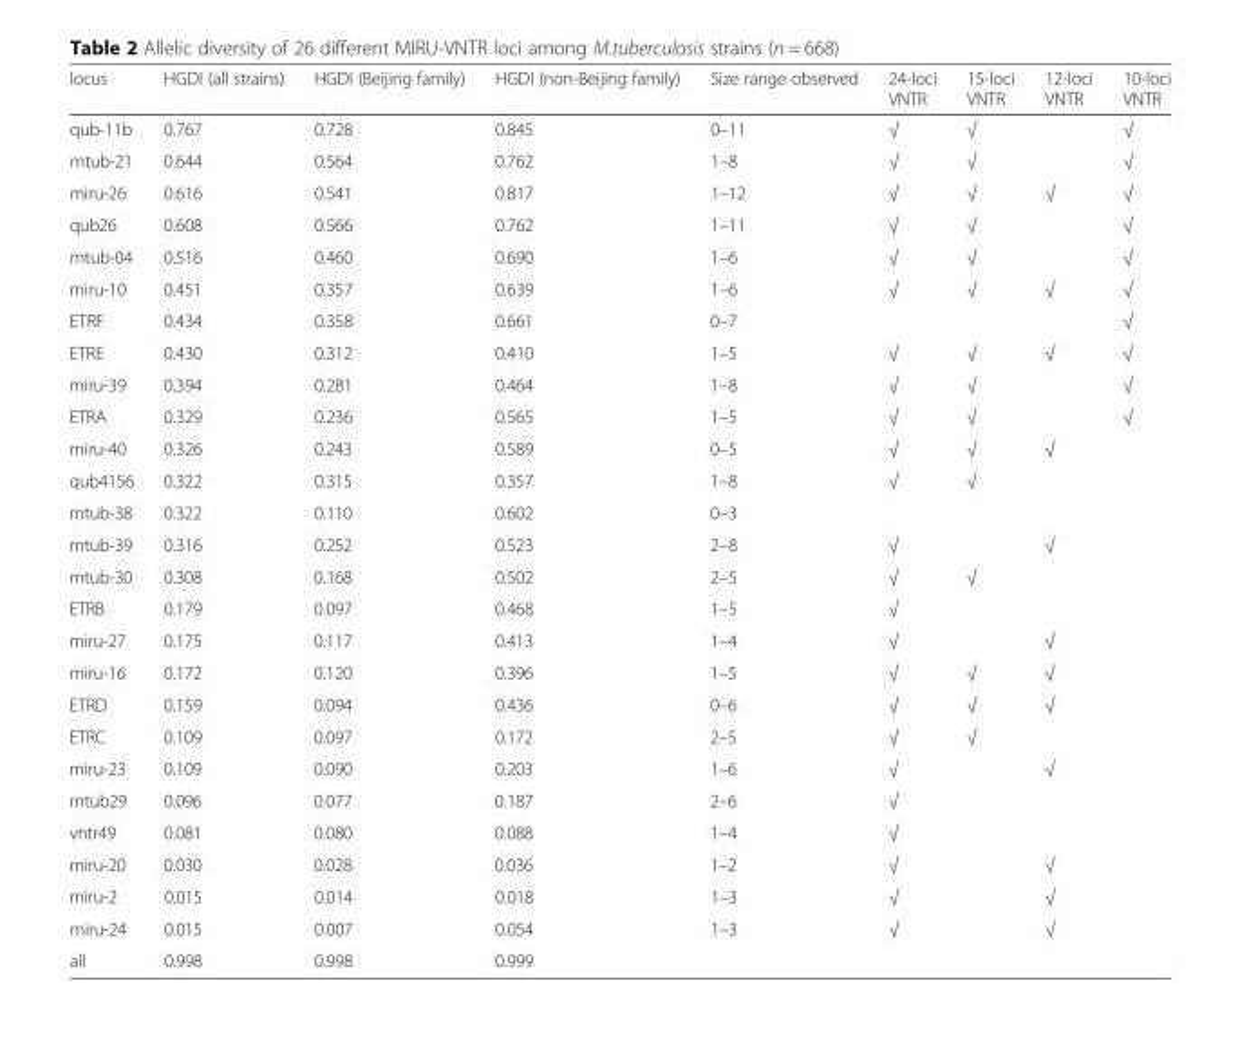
<table><thead><tr><td>locus</td><td>HGDI (all strains)</td><td>HGDI (Beijing family)</td><td>HGDI (non-Beijing family)</td><td>Size range observed</td><td>24-loci VNTR</td><td>15-loci VNTR</td><td>12-loci VNTR</td><td>10-loci VNTR</td></tr></thead><tbody><tr><td>qub-11b</td><td>0.767</td><td>0.728</td><td>0.845</td><td>0–11</td><td>√</td><td>√</td><td></td><td>√</td></tr><tr><td>mtub-21</td><td>0.644</td><td>0.564</td><td>0.762</td><td>1–8</td><td>√</td><td>√</td><td></td><td>√</td></tr><tr><td>miru-26</td><td>0.616</td><td>0.541</td><td>0.817</td><td>1–12</td><td>√</td><td>√</td><td>√</td><td>√</td></tr><tr><td>qub26</td><td>0.608</td><td>0.566</td><td>0.762</td><td>1–11</td><td>√</td><td>√</td><td></td><td>√</td></tr><tr><td>mtub-04</td><td>0.516</td><td>0.460</td><td>0.690</td><td>1–6</td><td>√</td><td>√</td><td></td><td>√</td></tr><tr><td>miru-10</td><td>0.451</td><td>0.357</td><td>0.639</td><td>1–6</td><td>√</td><td>√</td><td>√</td><td>√</td></tr><tr><td>ETRF</td><td>0.434</td><td>0.358</td><td>0.661</td><td>0–7</td><td></td><td></td><td></td><td>√</td></tr><tr><td>ETRE</td><td>0.430</td><td>0.312</td><td>0.410</td><td>1–5</td><td>√</td><td>√</td><td>√</td><td>√</td></tr><tr><td>miru-39</td><td>0.394</td><td>0.281</td><td>0.464</td><td>1–8</td><td>√</td><td>√</td><td></td><td>√</td></tr><tr><td>ETRA</td><td>0.329</td><td>0.236</td><td>0.565</td><td>1–5</td><td>√</td><td>√</td><td></td><td>√</td></tr><tr><td>miru-40</td><td>0.326</td><td>0.243</td><td>0.589</td><td>0–5</td><td>√</td><td>√</td><td>√</td><td></td></tr><tr><td>qub4156</td><td>0.322</td><td>0.315</td><td>0.357</td><td>1–8</td><td>√</td><td>√</td><td></td><td></td></tr><tr><td>mtub-38</td><td>0.322</td><td>0.110</td><td>0.602</td><td>0–3</td><td></td><td></td><td></td><td></td></tr><tr><td>mtub-39</td><td>0.316</td><td>0.252</td><td>0.523</td><td>2–8</td><td>√</td><td></td><td>√</td><td></td></tr><tr><td>mtub-30</td><td>0.308</td><td>0.168</td><td>0.502</td><td>2–5</td><td>√</td><td>√</td><td></td><td></td></tr><tr><td>ETRB</td><td>0.179</td><td>0.097</td><td>0.468</td><td>1–5</td><td>√</td><td></td><td></td><td></td></tr><tr><td>miru-27</td><td>0.175</td><td>0.117</td><td>0.413</td><td>1–4</td><td>√</td><td></td><td>√</td><td></td></tr><tr><td>miru-16</td><td>0.172</td><td>0.120</td><td>0.396</td><td>1–5</td><td>√</td><td>√</td><td>√</td><td></td></tr><tr><td>ETRD</td><td>0.159</td><td>0.094</td><td>0.436</td><td>0–6</td><td>√</td><td>√</td><td>√</td><td></td></tr><tr><td>ETRC</td><td>0.109</td><td>0.097</td><td>0.172</td><td>2–5</td><td>√</td><td>√</td><td></td><td></td></tr><tr><td>miru-23</td><td>0.109</td><td>0.090</td><td>0.203</td><td>1–6</td><td>√</td><td></td><td>√</td><td></td></tr><tr><td>mtub29</td><td>0.096</td><td>0.077</td><td>0.187</td><td>2–6</td><td>√</td><td></td><td></td><td></td></tr><tr><td>vntr49</td><td>0.081</td><td>0.080</td><td>0.088</td><td>1–4</td><td>√</td><td></td><td></td><td></td></tr><tr><td>miru-20</td><td>0.030</td><td>0.028</td><td>0.036</td><td>1–2</td><td>√</td><td></td><td>√</td><td></td></tr><tr><td>miru-2</td><td>0.015</td><td>0.014</td><td>0.018</td><td>1–3</td><td>√</td><td></td><td>√</td><td></td></tr><tr><td>miru-24</td><td>0.015</td><td>0.007</td><td>0.054</td><td>1–3</td><td>√</td><td></td><td>√</td><td></td></tr><tr><td>all</td><td>0.998</td><td>0.998</td><td>0.999</td><td></td><td></td><td></td><td></td><td></td></tr></tbody></table>